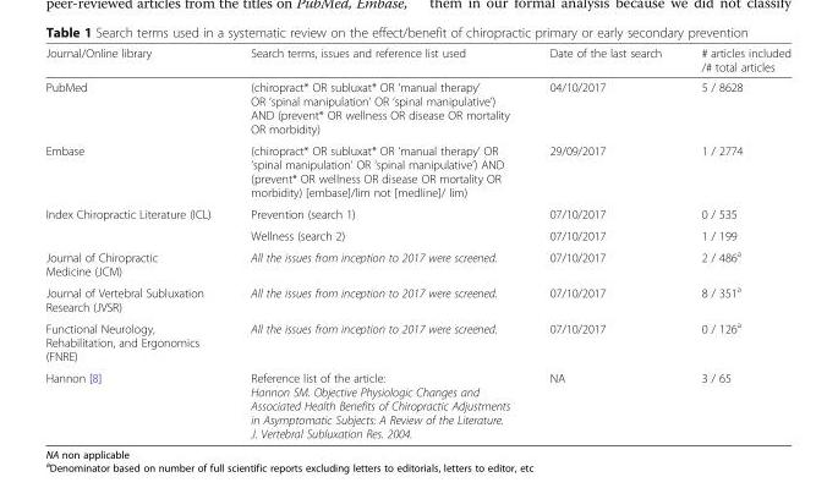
<table><thead><tr><td>Journal/Online library</td><td>Search terms, issues and reference list used</td><td>Date of the last search</td><td># articles included /# total articles</td></tr></thead><tbody><tr><td>PubMed</td><td>(chiropract* OR subluxat* OR ‘manual therapy’ OR ‘spinal manipulation’ OR ‘spinal manipulative’) AND (prevent* OR wellness OR disease OR mortality OR morbidity)</td><td>04/10/2017</td><td>5 / 8628</td></tr><tr><td>Embase</td><td>(chiropract* OR subluxat* OR ‘manual therapy’ OR ‘spinal manipulation’ OR ‘spinal manipulative’) AND (prevent* OR wellness OR disease OR mortality OR morbidity) [embase]/lim not [medline]/ lim)</td><td>29/09/2017</td><td>1 / 2774</td></tr><tr><td rowspan="2">Index Chiropractic Literature (ICL)</td><td>Prevention (search 1)</td><td>07/10/2017</td><td>0 / 535</td></tr><tr><td>Wellness (search 2)</td><td>07/10/2017</td><td>1 / 199</td></tr><tr><td>Journal of Chiropractic Medicine (JCM)</td><td>All the issues from inception to 2017 were screened.</td><td>07/10/2017</td><td>2 / 486<sup>a</sup></td></tr><tr><td>Journal of Vertebral Subluxation Research (JVSR)</td><td>All the issues from inception to 2017 were screened.</td><td>07/10/2017</td><td>8 / 351<sup>a</sup></td></tr><tr><td>Functional Neurology, Rehabilitation, and Ergonomics (FNRE)</td><td>All the issues from inception to 2017 were screened.</td><td>07/10/2017</td><td>0 / 126<sup>a</sup></td></tr><tr><td>Hannon [8]</td><td>Reference list of the article: Hannon SM. Objective Physiologic Changes and Associated Health Benefits of Chiropractic Adjustments in Asymptomatic Subjects: A Review of the Literature. J. Vertebral Subluxation Res. 2004.</td><td>NA</td><td>3 / 65</td></tr></tbody></table>